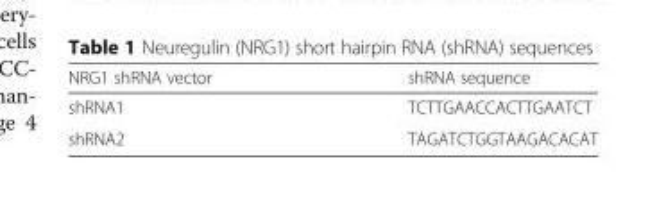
<table><thead><tr><td>NRG1 shRNA vector</td><td>shRNA sequence</td></tr></thead><tbody><tr><td>shRNA1</td><td>TCTTGAACCACTTGAATCT</td></tr><tr><td>shRNA2</td><td>TAGATCTGGTAAGACACAT</td></tr></tbody></table>